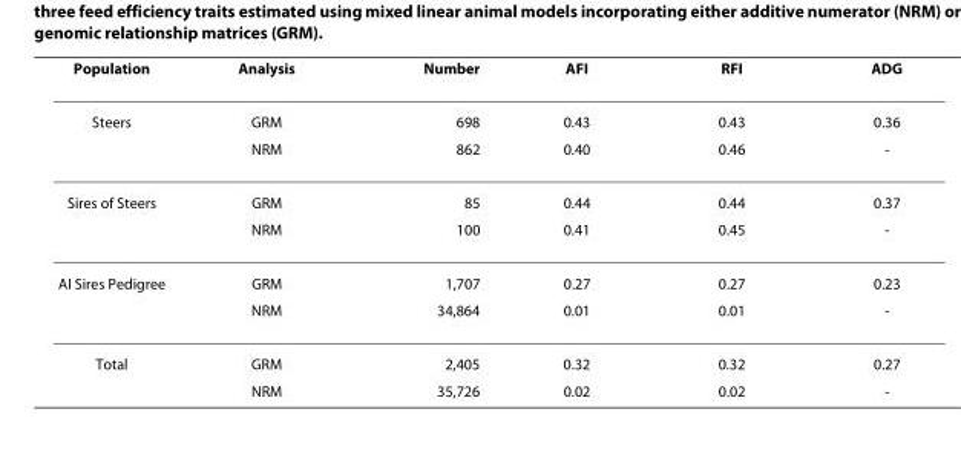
<table><thead><tr><td>Population</td><td>Analysis</td><td>Number</td><td>AFI</td><td>RFI</td><td>ADG</td></tr></thead><tbody><tr><td rowspan="2">Steers</td><td>GRM</td><td>698</td><td>0.43</td><td>0.43</td><td>0.36</td></tr><tr><td>NRM</td><td>862</td><td>0.40</td><td>0.46</td><td>-</td></tr><tr><td rowspan="2">Sires of Steers</td><td>GRM</td><td>85</td><td>0.44</td><td>0.44</td><td>0.37</td></tr><tr><td>NRM</td><td>100</td><td>0.41</td><td>0.45</td><td>-</td></tr><tr><td rowspan="2">AI Sires Pedigree</td><td>GRM</td><td>1,707</td><td>0.27</td><td>0.27</td><td>0.23</td></tr><tr><td>NRM</td><td>34,864</td><td>0.01</td><td>0.01</td><td>-</td></tr><tr><td rowspan="2">Total</td><td>GRM</td><td>2,405</td><td>0.32</td><td>0.32</td><td>0.27</td></tr><tr><td>NRM</td><td>35,726</td><td>0.02</td><td>0.02</td><td>-</td></tr></tbody></table>